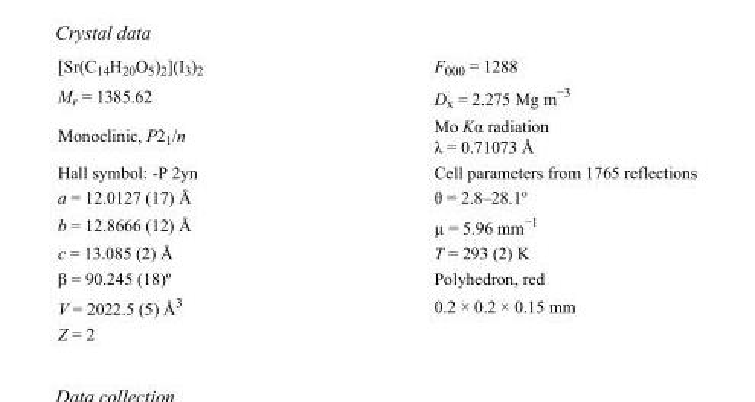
<table><tbody><tr><td>[Sr(C<sub>14</sub>H<sub>20</sub>O<sub>5</sub>)<sub>2</sub>](I<sub>3</sub>)<sub>2</sub></td><td>F<sub>000</sub> = 1288</td></tr><tr><td>M<sub>r</sub> = 1385.62</td><td>D<sub>x</sub> = 2.275 Mg m<sup>−3</sup></td></tr><tr><td>Monoclinic, P2<sub>1</sub>/n</td><td>Mo Kα radiation λ = 0.71073 Å</td></tr><tr><td>Hall symbol: -P 2yn</td><td>Cell parameters from 1765 reflections</td></tr><tr><td>a = 12.0127 (17) Å</td><td>θ = 2.8–28.1º</td></tr><tr><td>b = 12.8666 (12) Å</td><td>µ = 5.96 mm<sup>−1</sup></td></tr><tr><td>c = 13.085 (2) Å</td><td>T = 293 (2) K</td></tr><tr><td>β = 90.245 (18)º</td><td>Polyhedron, red</td></tr><tr><td>V = 2022.5 (5) Å<sup>3</sup></td><td>0.2 × 0.2 × 0.15 mm</td></tr><tr><td>Z = 2</td><td></td></tr></tbody></table>